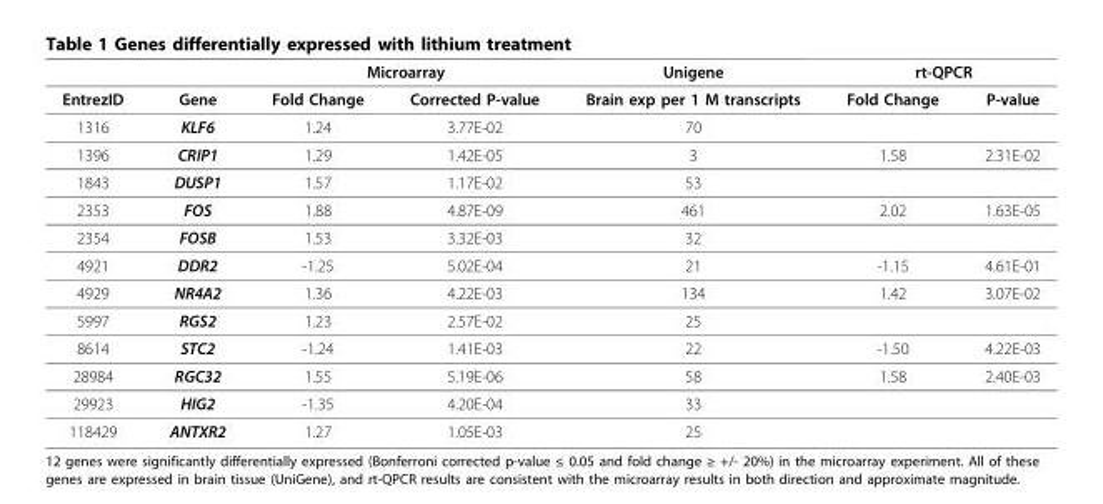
<table><thead><tr><td rowspan="2">EntrezID</td><td rowspan="2">Gene</td><td colspan="2">Microarray</td><td rowspan="2">Unigene Brain exp per 1 M transcripts</td><td colspan="2">rt-QPCR</td></tr><tr><td>Fold Change</td><td>Corrected P-value</td><td>Fold Change</td><td>P-value</td></tr></thead><tbody><tr><td>1316</td><td>KLF6</td><td>1.24</td><td>3.77E-02</td><td>70</td><td></td><td></td></tr><tr><td>1396</td><td>CRIP1</td><td>1.29</td><td>1.42E-05</td><td>3</td><td>1.58</td><td>2.31E-02</td></tr><tr><td>1843</td><td>DUSP1</td><td>1.57</td><td>1.17E-02</td><td>53</td><td></td><td></td></tr><tr><td>2353</td><td>FOS</td><td>1.88</td><td>4.87E-09</td><td>461</td><td>2.02</td><td>1.63E-05</td></tr><tr><td>2354</td><td>FOSB</td><td>1.53</td><td>3.32E-03</td><td>32</td><td></td><td></td></tr><tr><td>4921</td><td>DDR2</td><td>-1.25</td><td>5.02E-04</td><td>21</td><td>-1.15</td><td>4.61E-01</td></tr><tr><td>4929</td><td>NR4A2</td><td>1.36</td><td>4.22E-03</td><td>134</td><td>1.42</td><td>3.07E-02</td></tr><tr><td>5997</td><td>RGS2</td><td>1.23</td><td>2.57E-02</td><td>25</td><td></td><td></td></tr><tr><td>8614</td><td>STC2</td><td>-1.24</td><td>1.41E-03</td><td>22</td><td>-1.50</td><td>4.22E-03</td></tr><tr><td>28984</td><td>RGC32</td><td>1.55</td><td>5.19E-06</td><td>58</td><td>1.58</td><td>2.40E-03</td></tr><tr><td>29923</td><td>HIG2</td><td>-1.35</td><td>4.20E-04</td><td>33</td><td></td><td></td></tr><tr><td>118429</td><td>ANTXR2</td><td>1.27</td><td>1.05E-03</td><td>25</td><td></td><td></td></tr></tbody></table>